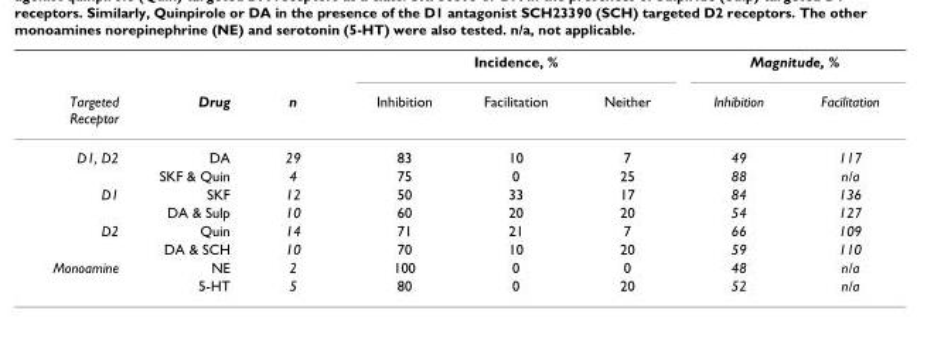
<table><thead><tr><td rowspan="2">Targeted Receptor</td><td rowspan="2">Drug</td><td rowspan="2">n</td><td colspan="3">Incidence, %</td><td colspan="2">Magnitude, %</td></tr><tr><td>Inhibition</td><td>Facilitation</td><td>Neither</td><td>Inhibition</td><td>Facilitation</td></tr></thead><tbody><tr><td rowspan="2">D1, D2</td><td>DA</td><td>29</td><td>83</td><td>10</td><td>7</td><td>49</td><td>117</td></tr><tr><td>SKF &amp; Quin</td><td>4</td><td>75</td><td>0</td><td>25</td><td>88</td><td>n/a</td></tr><tr><td rowspan="2">D1</td><td>SKF</td><td>12</td><td>50</td><td>33</td><td>17</td><td>84</td><td>136</td></tr><tr><td>DA &amp; Sulp</td><td>10</td><td>60</td><td>20</td><td>20</td><td>54</td><td>127</td></tr><tr><td rowspan="2">D2</td><td>Quin</td><td>14</td><td>71</td><td>21</td><td>7</td><td>66</td><td>109</td></tr><tr><td>DA &amp; SCH</td><td>10</td><td>70</td><td>10</td><td>20</td><td>59</td><td>110</td></tr><tr><td rowspan="2">Monoamine</td><td>NE</td><td>2</td><td>100</td><td>0</td><td>0</td><td>48</td><td>n/a</td></tr><tr><td>5-HT</td><td>5</td><td>80</td><td>0</td><td>20</td><td>52</td><td>n/a</td></tr></tbody></table>